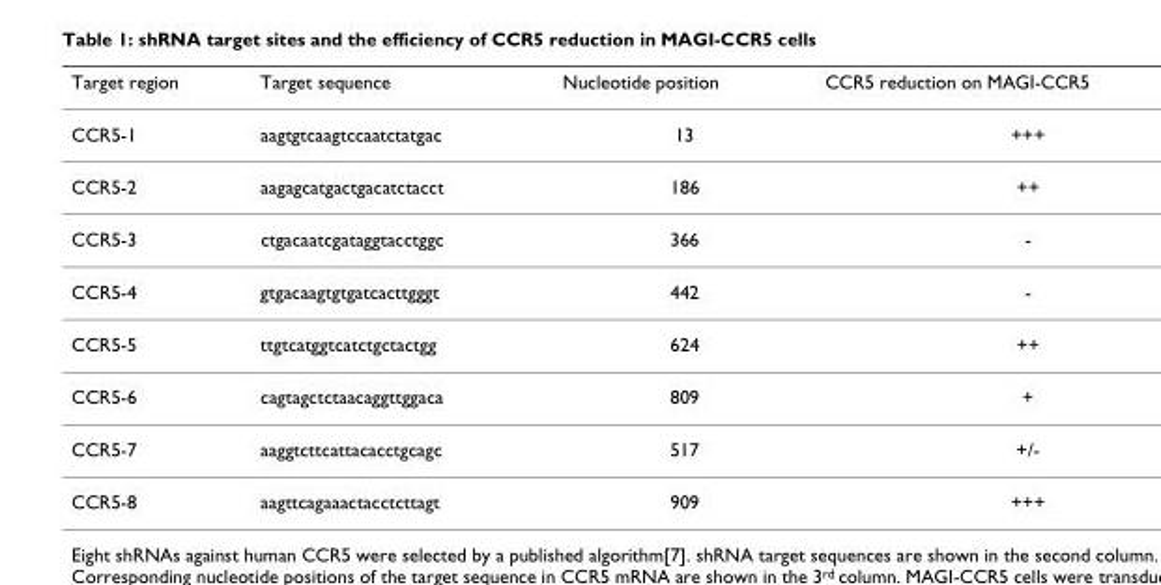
<table><thead><tr><td>Target region</td><td>Target sequence</td><td>Nucleotide position</td><td>CCR5 reduction on MAGI-CCR5</td></tr></thead><tbody><tr><td>CCR5-1</td><td>aagtgtcaagtccaatctatgac</td><td>13</td><td>+++</td></tr><tr><td>CCR5-2</td><td>aagagcatgactgacatctacct</td><td>186</td><td>++</td></tr><tr><td>CCR5-3</td><td>ctgacaatcgataggtacctggc</td><td>366</td><td>-</td></tr><tr><td>CCR5-4</td><td>gtgacaagtgtgatcacttgggt</td><td>442</td><td>-</td></tr><tr><td>CCR5-5</td><td>ttgtcatggtcatctgctactgg</td><td>624</td><td>++</td></tr><tr><td>CCR5-6</td><td>cagtagctctaacaggttggaca</td><td>809</td><td>+</td></tr><tr><td>CCR5-7</td><td>aaggtcttcattacacctgcagc</td><td>517</td><td>+/-</td></tr><tr><td>CCR5-8</td><td>aagttcagaaactacctcttagt</td><td>909</td><td>+++</td></tr></tbody></table>